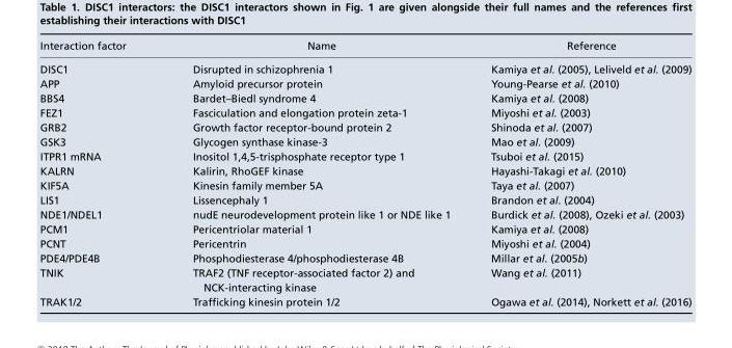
<table><thead><tr><td>Interaction factor</td><td>Name</td><td>Reference</td></tr></thead><tbody><tr><td>DISC1</td><td>Disrupted in schizophrenia 1</td><td>Kamiya et al. (2005), Leliveld et al. (2009)</td></tr><tr><td>APP</td><td>Amyloid precursor protein</td><td>Young-Pearse et al. (2010)</td></tr><tr><td>BBS4</td><td>Bardet–Biedl syndrome 4</td><td>Kamiya et al. (2008)</td></tr><tr><td>FEZ1</td><td>Fasciculation and elongation protein zeta-1</td><td>Miyoshi et al. (2003)</td></tr><tr><td>GRB2</td><td>Growth factor receptor-bound protein 2</td><td>Shinoda et al. (2007)</td></tr><tr><td>GSK3</td><td>Glycogen synthase kinase-3</td><td>Mao et al. (2009)</td></tr><tr><td>ITPR1 mRNA</td><td>Inositol 1,4,5-trisphosphate receptor type 1</td><td>Tsuboi et al. (2015)</td></tr><tr><td>KALRN</td><td>Kalirin, RhoGEF kinase</td><td>Hayashi-Takagi et al. (2010)</td></tr><tr><td>KIF5A</td><td>Kinesin family member 5A</td><td>Taya et al. (2007)</td></tr><tr><td>LIS1</td><td>Lissencephaly 1</td><td>Brandon et al. (2004)</td></tr><tr><td>NDE1/NDEL1</td><td>nudE neurodevelopment protein like 1 or NDE like 1</td><td>Burdick et al. (2008), Ozeki et al. (2003)</td></tr><tr><td>PCM1</td><td>Pericentriolar material 1</td><td>Kamiya et al. (2008)</td></tr><tr><td>PCNT</td><td>Pericentrin</td><td>Miyoshi et al. (2004)</td></tr><tr><td>PDE4/PDE4B</td><td>Phosphodiesterase 4/phosphodiesterase 4B</td><td>Millar et al. (2005b)</td></tr><tr><td>TNIK</td><td>TRAF2 (TNF receptor-associated factor 2) and NCK-interacting kinase</td><td>Wang et al. (2011)</td></tr><tr><td>TRAK1/2</td><td>Trafficking kinesin protein 1/2</td><td>Ogawa et al. (2014), Norkett et al. (2016)</td></tr></tbody></table>